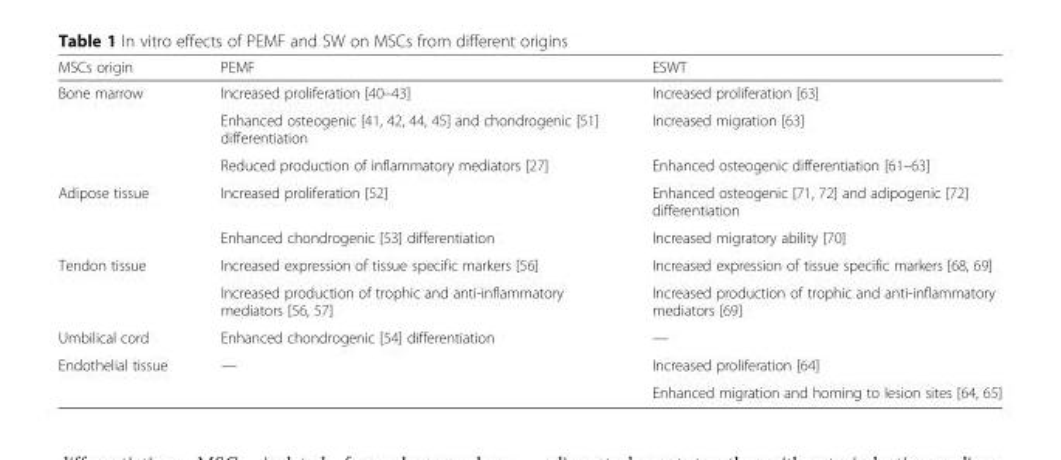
<table><thead><tr><td>MSCs origin</td><td>PEMF</td><td>ESWT</td></tr></thead><tbody><tr><td rowspan="3">Bone marrow</td><td>Increased proliferation [40–43]</td><td>Increased proliferation [63]</td></tr><tr><td>Enhanced osteogenic [41, 42, 44, 45] and chondrogenic [51] differentiation</td><td>Increased migration [63]</td></tr><tr><td>Reduced production of inflammatory mediators [27]</td><td>Enhanced osteogenic differentiation [61–63]</td></tr><tr><td rowspan="2">Adipose tissue</td><td>Increased proliferation [52]</td><td>Enhanced osteogenic [71, 72] and adipogenic [72] differentiation</td></tr><tr><td>Enhanced chondrogenic [53] differentiation</td><td>Increased migratory ability [70]</td></tr><tr><td rowspan="2">Tendon tissue</td><td>Increased expression of tissue specific markers [56]</td><td>Increased expression of tissue specific markers [68, 69]</td></tr><tr><td>Increased production of trophic and anti-inflammatory mediators [56, 57]</td><td>Increased production of trophic and anti-inflammatory mediators [69]</td></tr><tr><td>Umbilical cord</td><td>Enhanced chondrogenic [54] differentiation</td><td>—</td></tr><tr><td rowspan="2">Endothelial tissue</td><td rowspan="2">—</td><td>Increased proliferation [64]</td></tr><tr><td>Enhanced migration and homing to lesion sites [64, 65]</td></tr></tbody></table>